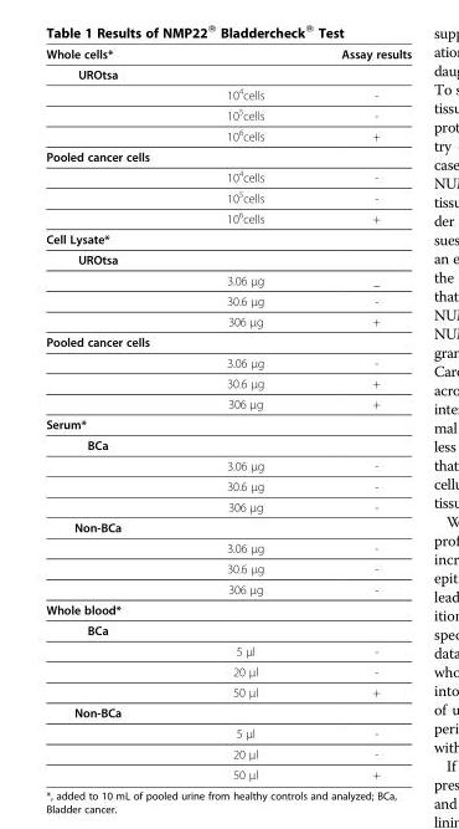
<table><thead><tr><td>Whole cells*</td><td></td><td>Assay results</td></tr></thead><tbody><tr><td colspan="3">UROtsa</td></tr><tr><td></td><td>10<sup>4</sup>cells</td><td>-</td></tr><tr><td></td><td>10<sup>5</sup>cells</td><td>-</td></tr><tr><td></td><td>10<sup>6</sup>cells</td><td>+</td></tr><tr><td colspan="3">Pooled cancer cells</td></tr><tr><td></td><td>10<sup>4</sup>cells</td><td>-</td></tr><tr><td></td><td>10<sup>5</sup>cells</td><td>-</td></tr><tr><td></td><td>10<sup>6</sup>cells</td><td>+</td></tr><tr><td colspan="3">Cell Lysate*</td></tr><tr><td colspan="3">UROtsa</td></tr><tr><td></td><td>3.06 μg</td><td>_</td></tr><tr><td></td><td>30.6 μg</td><td>-</td></tr><tr><td></td><td>306 μg</td><td>+</td></tr><tr><td colspan="3">Pooled cancer cells</td></tr><tr><td></td><td>3.06 μg</td><td>-</td></tr><tr><td></td><td>30.6 μg</td><td>+</td></tr><tr><td></td><td>306 μg</td><td>+</td></tr><tr><td colspan="3">Serum*</td></tr><tr><td colspan="3">BCa</td></tr><tr><td></td><td>3.06 μg</td><td>-</td></tr><tr><td></td><td>30.6 μg</td><td>-</td></tr><tr><td></td><td>306 μg</td><td>-</td></tr><tr><td colspan="3">Non-BCa</td></tr><tr><td></td><td>3.06 μg</td><td>-</td></tr><tr><td></td><td>30.6 μg</td><td>-</td></tr><tr><td></td><td>306 μg</td><td>-</td></tr><tr><td colspan="3">Whole blood*</td></tr><tr><td colspan="3">BCa</td></tr><tr><td></td><td>5 μl</td><td>-</td></tr><tr><td></td><td>20 μl</td><td>-</td></tr><tr><td></td><td>50 μl</td><td>+</td></tr><tr><td colspan="3">Non-BCa</td></tr><tr><td></td><td>5 μl</td><td>-</td></tr><tr><td></td><td>20 μl</td><td>-</td></tr><tr><td></td><td>50 μl</td><td>+</td></tr></tbody></table>